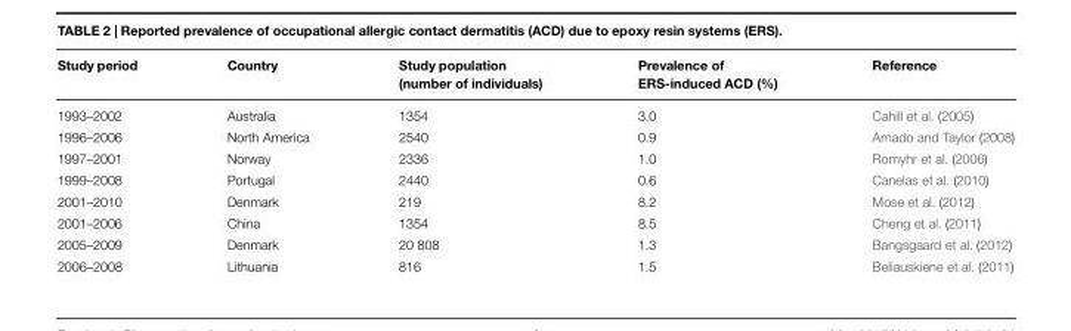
<table><thead><tr><td>Study period</td><td>Country</td><td>Study population (number of individuals)</td><td>Prevalence of ERS-induced ACD (%)</td><td>Reference</td></tr></thead><tbody><tr><td>1993–2002</td><td>Australia</td><td>1354</td><td>3.0</td><td>Cahill et al. (2005)</td></tr><tr><td>1996–2006</td><td>North America</td><td>2540</td><td>0.9</td><td>Amado and Taylor (2008)</td></tr><tr><td>1997–2001</td><td>Norway</td><td>2336</td><td>1.0</td><td>Romyhr et al. (2006)</td></tr><tr><td>1999–2008</td><td>Portugal</td><td>2440</td><td>0.6</td><td>Canelas et al. (2010)</td></tr><tr><td>2001–2010</td><td>Denmark</td><td>219</td><td>8.2</td><td>Mose et al. (2012)</td></tr><tr><td>2001–2006</td><td>China</td><td>1354</td><td>8.5</td><td>Cheng et al. (2011)</td></tr><tr><td>2005–2009</td><td>Denmark</td><td>20 808</td><td>1.3</td><td>Bangsgaard et al. (2012)</td></tr><tr><td>2006–2008</td><td>Lithuania</td><td>816</td><td>1.5</td><td>Beliauskiene et al. (2011)</td></tr></tbody></table>